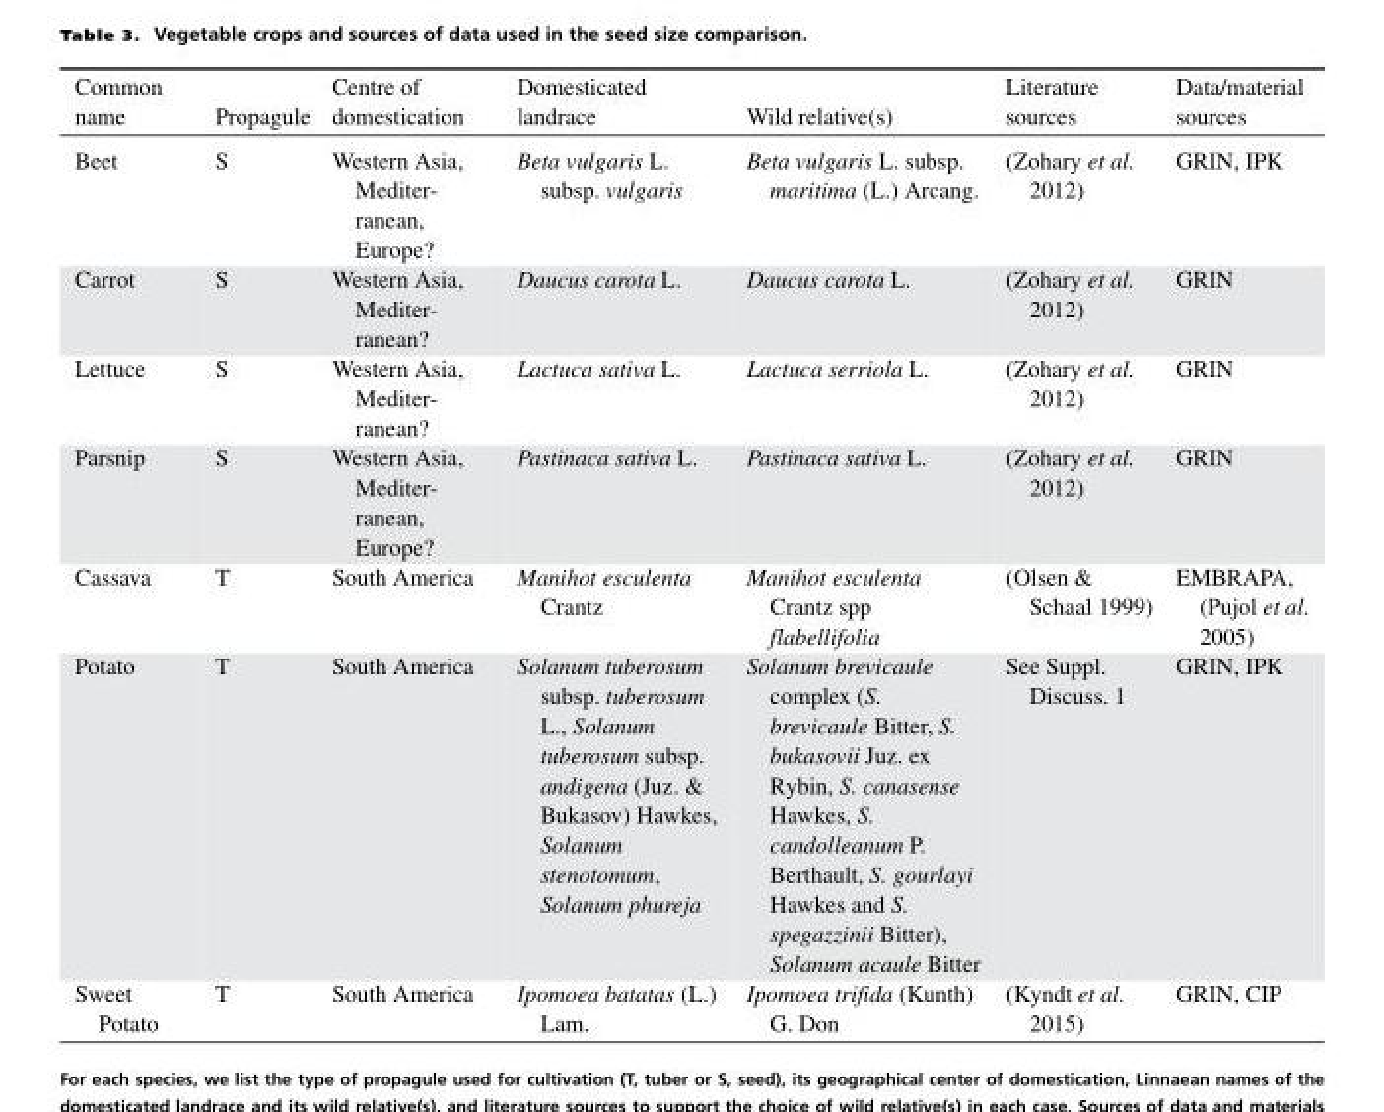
<table><thead><tr><td>Common name</td><td>Propagule</td><td>Centre of domestication</td><td>Domesticated landrace</td><td>Wild relative(s)</td><td>Literature sources</td><td>Data/material sources</td></tr></thead><tbody><tr><td>Beet</td><td>S</td><td>Western Asia, Mediter- ranean, Europe?</td><td>Beta vulgaris L. subsp. vulgaris</td><td>Beta vulgaris L. subsp. maritima (L.) Arcang.</td><td>(Zohary et al. 2012)</td><td>GRIN, IPK</td></tr><tr><td>Carrot</td><td>S</td><td>Western Asia, Mediter- ranean?</td><td>Daucus carota L.</td><td>Daucus carota L.</td><td>(Zohary et al. 2012)</td><td>GRIN</td></tr><tr><td>Lettuce</td><td>S</td><td>Western Asia, Mediter- ranean?</td><td>Lactuca sativa L.</td><td>Lactuca serriola L.</td><td>(Zohary et al. 2012)</td><td>GRIN</td></tr><tr><td>Parsnip</td><td>S</td><td>Western Asia, Mediter- ranean, Europe?</td><td>Pastinaca sativa L.</td><td>Pastinaca sativa L.</td><td>(Zohary et al. 2012)</td><td>GRIN</td></tr><tr><td>Cassava</td><td>T</td><td>South America</td><td>Manihot esculenta Crantz</td><td>Manihot esculenta Crantz spp flabellifolia</td><td>(Olsen &amp; Schaal 1999)</td><td>EMBRAPA, (Pujol et al. 2005)</td></tr><tr><td>Potato</td><td>T</td><td>South America</td><td>Solanum tuberosum subsp. tuberosum L., Solanum tuberosum subsp. andigena (Juz. &amp; Bukasov) Hawkes, Solanum stenotomum, Solanum phureja</td><td>Solanum brevicaule complex (S. brevicaule Bitter, S. bukasovii Juz. ex Rybin, S. canasense Hawkes, S. candolleanum P. Berthault, S. gourlayi Hawkes and S. spegazzinii Bitter), Solanum acaule Bitter</td><td>See Suppl. Discuss. 1</td><td>GRIN, IPK</td></tr><tr><td>Sweet Potato</td><td>T</td><td>South America</td><td>Ipomoea batatas (L.) Lam.</td><td>Ipomoea trifida (Kunth) G. Don</td><td>(Kyndt et al. 2015)</td><td>GRIN, CIP</td></tr></tbody></table>